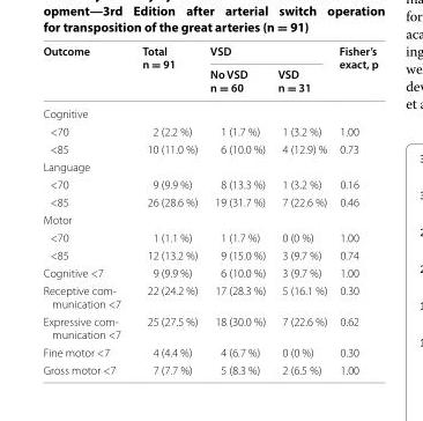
<table><thead><tr><td rowspan="2">Outcome</td><td rowspan="2">Total n = 91</td><td colspan="2">VSD</td><td rowspan="2">Fisher’s exact, p</td></tr><tr><td>No VSD n = 60</td><td>VSD n = 31</td></tr></thead><tbody><tr><td colspan="5">Cognitive</td></tr><tr><td>&lt;70</td><td>2 (2.2 %)</td><td>1 (1.7 %)</td><td>1 (3.2 %)</td><td>1.00</td></tr><tr><td>&lt;85</td><td>10 (11.0 %)</td><td>6 (10.0 %)</td><td>4 (12.9) %</td><td>0.73</td></tr><tr><td colspan="5">Language</td></tr><tr><td>&lt;70</td><td>9 (9.9 %)</td><td>8 (13.3 %)</td><td>1 (3.2 %)</td><td>0.16</td></tr><tr><td>&lt;85</td><td>26 (28.6 %)</td><td>19 (31.7 %)</td><td>7 (22.6 %)</td><td>0.46</td></tr><tr><td colspan="5">Motor</td></tr><tr><td>&lt;70</td><td>1 (1.1 %)</td><td>1 (1.7 %)</td><td>0 (0 %)</td><td>1.00</td></tr><tr><td>&lt;85</td><td>12 (13.2 %)</td><td>9 (15.0 %)</td><td>3 (9.7 %)</td><td>0.74</td></tr><tr><td>Cognitive &lt;7</td><td>9 (9.9 %)</td><td>6 (10.0 %)</td><td>3 (9.7 %)</td><td>1.00</td></tr><tr><td>Receptive com- munication &lt;7</td><td>22 (24.2 %)</td><td>17 (28.3 %)</td><td>5 (16.1 %)</td><td>0.30</td></tr><tr><td>Expressive com- munication &lt;7</td><td>25 (27.5 %)</td><td>18 (30.0 %)</td><td>7 (22.6 %)</td><td>0.62</td></tr><tr><td>Fine motor &lt;7</td><td>4 (4.4 %)</td><td>4 (6.7 %)</td><td>0 (0 %)</td><td>0.30</td></tr><tr><td>Gross motor &lt;7</td><td>7 (7.7 %)</td><td>5 (8.3 %)</td><td>2 (6.5 %)</td><td>1.00</td></tr></tbody></table>